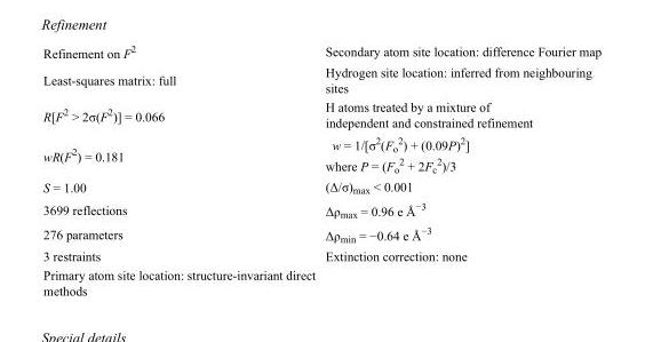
<table><tbody><tr><td>Refinement on F2</td><td>Secondary atom site location: difference Fourier map</td></tr><tr><td>Least-squares matrix: full</td><td>Hydrogen site location: inferred from neighbouring sites</td></tr><tr><td>R[F2 &gt; 2σ(F2)] = 0.066</td><td>H atoms treated by a mixture of independent and constrained refinement</td></tr><tr><td>wR(F2) = 0.181</td><td>w = 1/[σ2(Fo 2) + (0.09P)2] where P = (Fo 2 + 2Fc 2)/3</td></tr><tr><td>S = 1.00</td><td>(Δ/σ)max &lt; 0.001</td></tr><tr><td>3699 reflections</td><td>Δρmax = 0.96 e Å−3</td></tr><tr><td>276 parameters</td><td>Δρmin = −0.64 e Å−3</td></tr><tr><td>3 restraints</td><td>Extinction correction: none</td></tr><tr><td>Primary atom site location: structure-invariant direct methods</td><td></td></tr></tbody></table>